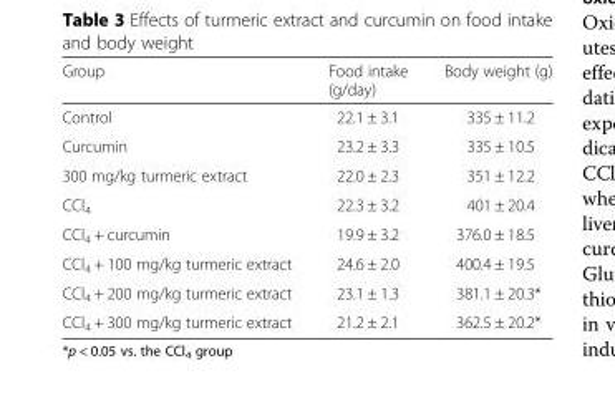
<table><thead><tr><td>Group</td><td>Food intake (g/day)</td><td>Body weight (g)</td></tr></thead><tbody><tr><td>Control</td><td>22.1 ± 3.1</td><td>335 ± 11.2</td></tr><tr><td>Curcumin</td><td>23.2 ± 3.3</td><td>335 ± 10.5</td></tr><tr><td>300 mg/kg turmeric extract</td><td>22.0 ± 2.3</td><td>351 ± 12.2</td></tr><tr><td>CCl<sub>4</sub></td><td>22.3 ± 3.2</td><td>401 ± 20.4</td></tr><tr><td>CCl<sub>4</sub> + curcumin</td><td>19.9 ± 3.2</td><td>376.0 ± 18.5</td></tr><tr><td>CCl<sub>4</sub> + 100 mg/kg turmeric extract</td><td>24.6 ± 2.0</td><td>400.4 ± 19.5</td></tr><tr><td>CCl<sub>4</sub> + 200 mg/kg turmeric extract</td><td>23.1 ± 1.3</td><td>381.1 ± 20.3*</td></tr><tr><td>CCl<sub>4</sub> + 300 mg/kg turmeric extract</td><td>21.2 ± 2.1</td><td>362.5 ± 20.2*</td></tr></tbody></table>